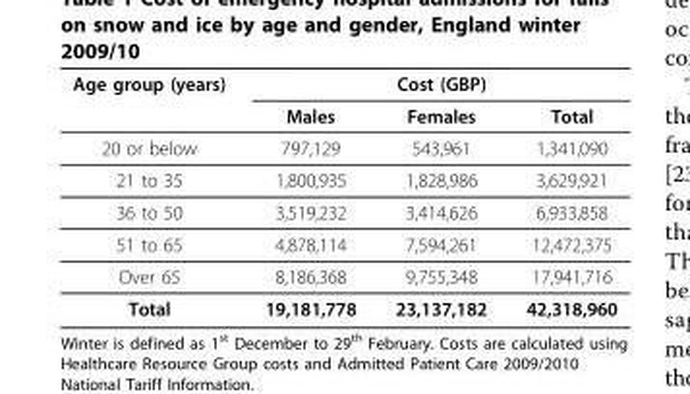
<table><thead><tr><td rowspan="2">Age group (years)</td><td colspan="3">Cost (GBP)</td></tr><tr><td>Males</td><td>Females</td><td>Total</td></tr></thead><tbody><tr><td>20 or below</td><td>797,129</td><td>543,961</td><td>1,341,090</td></tr><tr><td>21 to 35</td><td>1,800,935</td><td>1,828,986</td><td>3,629,921</td></tr><tr><td>36 to 50</td><td>3,519,232</td><td>3,414,626</td><td>6,933,858</td></tr><tr><td>51 to 65</td><td>4,878,114</td><td>7,594,261</td><td>12,472,375</td></tr><tr><td>Over 65</td><td>8,186,368</td><td>9,755,348</td><td>17,941,716</td></tr><tr><td>Total</td><td>19,181,778</td><td>23,137,182</td><td>42,318,960</td></tr></tbody></table>